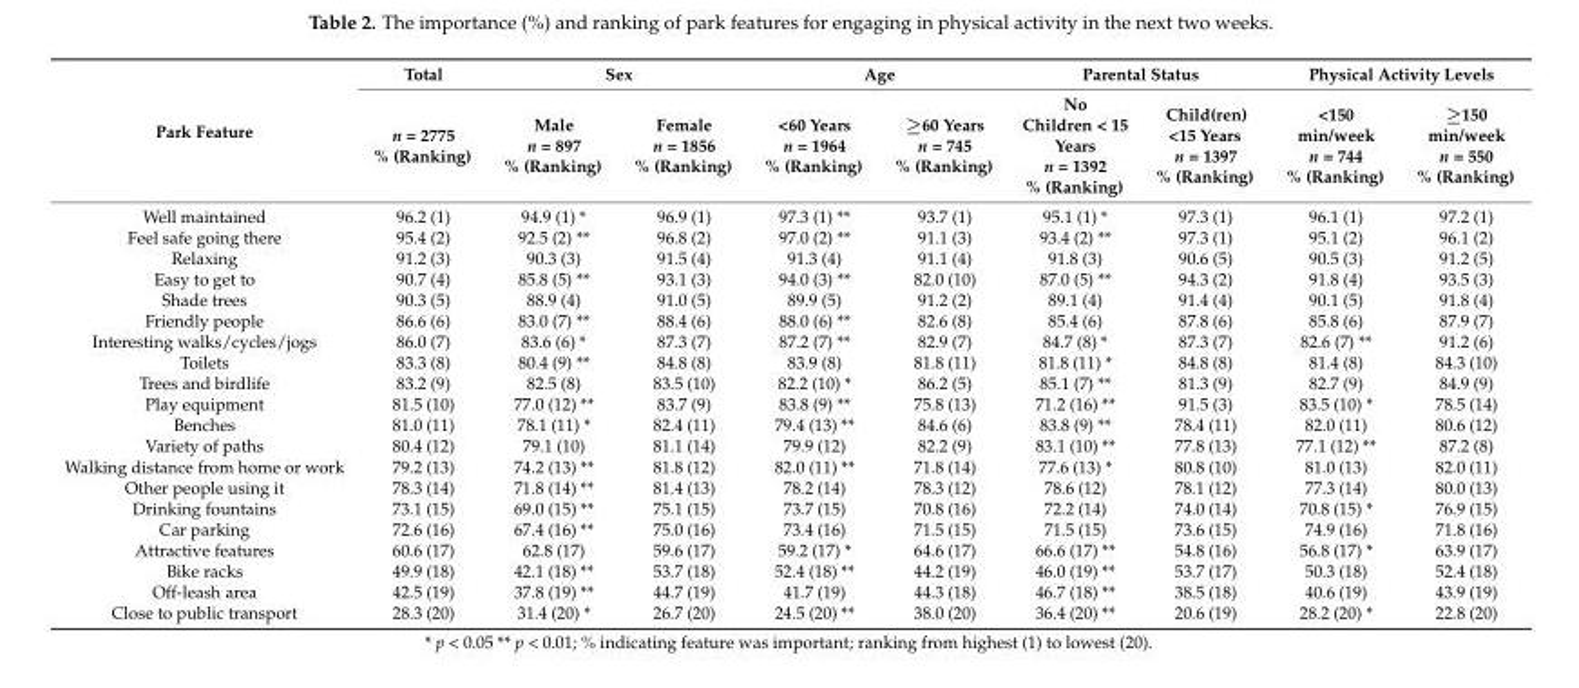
<table><thead><tr><td rowspan="2">Park Feature</td><td rowspan="2">Total n = 2775 % (Ranking)</td><td colspan="2">Sex</td><td colspan="2">Age</td><td colspan="2">Parental Status</td><td colspan="2">Physical Activity Levels</td></tr><tr><td>Male n = 897 % (Ranking)</td><td>Female n = 1856 % (Ranking)</td><td>&lt;60 Years n = 1964 % (Ranking)</td><td>≥60 Years n = 745 % (Ranking)</td><td>No Children &lt; 15 Years n = 1392 % (Ranking)</td><td>Child(ren) &lt;15 Years n = 1397 % (Ranking)</td><td>&lt;150 min/week n = 744 % (Ranking)</td><td>≥150 min/week n = 550 % (Ranking)</td></tr></thead><tbody><tr><td>Well maintained</td><td>96.2 (1)</td><td>94.9 (1) *</td><td>96.9 (1)</td><td>97.3 (1) **</td><td>93.7 (1)</td><td>95.1 (1) *</td><td>97.3 (1)</td><td>96.1 (1)</td><td>97.2 (1)</td></tr><tr><td>Feel safe going there</td><td>95.4 (2)</td><td>92.5 (2) **</td><td>96.8 (2)</td><td>97.0 (2) **</td><td>91.1 (3)</td><td>93.4 (2) **</td><td>97.3 (1)</td><td>95.1 (2)</td><td>96.1 (2)</td></tr><tr><td>Relaxing</td><td>91.2 (3)</td><td>90.3 (3)</td><td>91.5 (4)</td><td>91.3 (4)</td><td>91.1 (4)</td><td>91.8 (3)</td><td>90.6 (5)</td><td>90.5 (3)</td><td>91.2 (5)</td></tr><tr><td>Easy to get to</td><td>90.7 (4)</td><td>85.8 (5) **</td><td>93.1 (3)</td><td>94.0 (3) **</td><td>82.0 (10)</td><td>87.0 (5) **</td><td>94.3 (2)</td><td>91.8 (4)</td><td>93.5 (3)</td></tr><tr><td>Shade trees</td><td>90.3 (5)</td><td>88.9 (4)</td><td>91.0 (5)</td><td>89.9 (5)</td><td>91.2 (2)</td><td>89.1 (4)</td><td>91.4 (4)</td><td>90.1 (5)</td><td>91.8 (4)</td></tr><tr><td>Friendly people</td><td>86.6 (6)</td><td>83.0 (7) **</td><td>88.4 (6)</td><td>88.0 (6) **</td><td>82.6 (8)</td><td>85.4 (6)</td><td>87.8 (6)</td><td>85.8 (6)</td><td>87.9 (7)</td></tr><tr><td>Interesting walks/cycles/jogs</td><td>86.0 (7)</td><td>83.6 (6) *</td><td>87.3 (7)</td><td>87.2 (7) **</td><td>82.9 (7)</td><td>84.7 (8) *</td><td>87.3 (7)</td><td>82.6 (7) **</td><td>91.2 (6)</td></tr><tr><td>Toilets</td><td>83.3 (8)</td><td>80.4 (9) **</td><td>84.8 (8)</td><td>83.9 (8)</td><td>81.8 (11)</td><td>81.8 (11) *</td><td>84.8 (8)</td><td>81.4 (8)</td><td>84.3 (10)</td></tr><tr><td>Trees and birdlife</td><td>83.2 (9)</td><td>82.5 (8)</td><td>83.5 (10)</td><td>82.2 (10) *</td><td>86.2 (5)</td><td>85.1 (7) **</td><td>81.3 (9)</td><td>82.7 (9)</td><td>84.9 (9)</td></tr><tr><td>Play equipment</td><td>81.5 (10)</td><td>77.0 (12) **</td><td>83.7 (9)</td><td>83.8 (9) **</td><td>75.8 (13)</td><td>71.2 (16) **</td><td>91.5 (3)</td><td>83.5 (10) *</td><td>78.5 (14)</td></tr><tr><td>Benches</td><td>81.0 (11)</td><td>78.1 (11) *</td><td>82.4 (11)</td><td>79.4 (13) **</td><td>84.6 (6)</td><td>83.8 (9) **</td><td>78.4 (11)</td><td>82.0 (11)</td><td>80.6 (12)</td></tr><tr><td>Variety of paths</td><td>80.4 (12)</td><td>79.1 (10)</td><td>81.1 (14)</td><td>79.9 (12)</td><td>82.2 (9)</td><td>83.1 (10) **</td><td>77.8 (13)</td><td>77.1 (12) **</td><td>87.2 (8)</td></tr><tr><td>Walking distance from home or work</td><td>79.2 (13)</td><td>74.2 (13) **</td><td>81.8 (12)</td><td>82.0 (11) **</td><td>71.8 (14)</td><td>77.6 (13) *</td><td>80.8 (10)</td><td>81.0 (13)</td><td>82.0 (11)</td></tr><tr><td>Other people using it</td><td>78.3 (14)</td><td>71.8 (14) **</td><td>81.4 (13)</td><td>78.2 (14)</td><td>78.3 (12)</td><td>78.6 (12)</td><td>78.1 (12)</td><td>77.3 (14)</td><td>80.0 (13)</td></tr><tr><td>Drinking fountains</td><td>73.1 (15)</td><td>69.0 (15) **</td><td>75.1 (15)</td><td>73.7 (15)</td><td>70.8 (16)</td><td>72.2 (14)</td><td>74.0 (14)</td><td>70.8 (15) *</td><td>76.9 (15)</td></tr><tr><td>Car parking</td><td>72.6 (16)</td><td>67.4 (16) **</td><td>75.0 (16)</td><td>73.4 (16)</td><td>71.5 (15)</td><td>71.5 (15)</td><td>73.6 (15)</td><td>74.9 (16)</td><td>71.8 (16)</td></tr><tr><td>Attractive features</td><td>60.6 (17)</td><td>62.8 (17)</td><td>59.6 (17)</td><td>59.2 (17) *</td><td>64.6 (17)</td><td>66.6 (17) **</td><td>54.8 (16)</td><td>56.8 (17) *</td><td>63.9 (17)</td></tr><tr><td>Bike racks</td><td>49.9 (18)</td><td>42.1 (18) **</td><td>53.7 (18)</td><td>52.4 (18) **</td><td>44.2 (19)</td><td>46.0 (19) **</td><td>53.7 (17)</td><td>50.3 (18)</td><td>52.4 (18)</td></tr><tr><td>Off-leash area</td><td>42.5 (19)</td><td>37.8 (19) **</td><td>44.7 (19)</td><td>41.7 (19)</td><td>44.3 (18)</td><td>46.7 (18) **</td><td>38.5 (18)</td><td>40.6 (19)</td><td>43.9 (19)</td></tr><tr><td>Close to public transport</td><td>28.3 (20)</td><td>31.4 (20) *</td><td>26.7 (20)</td><td>24.5 (20) **</td><td>38.0 (20)</td><td>36.4 (20) **</td><td>20.6 (19)</td><td>28.2 (20) *</td><td>22.8 (20)</td></tr></tbody></table>